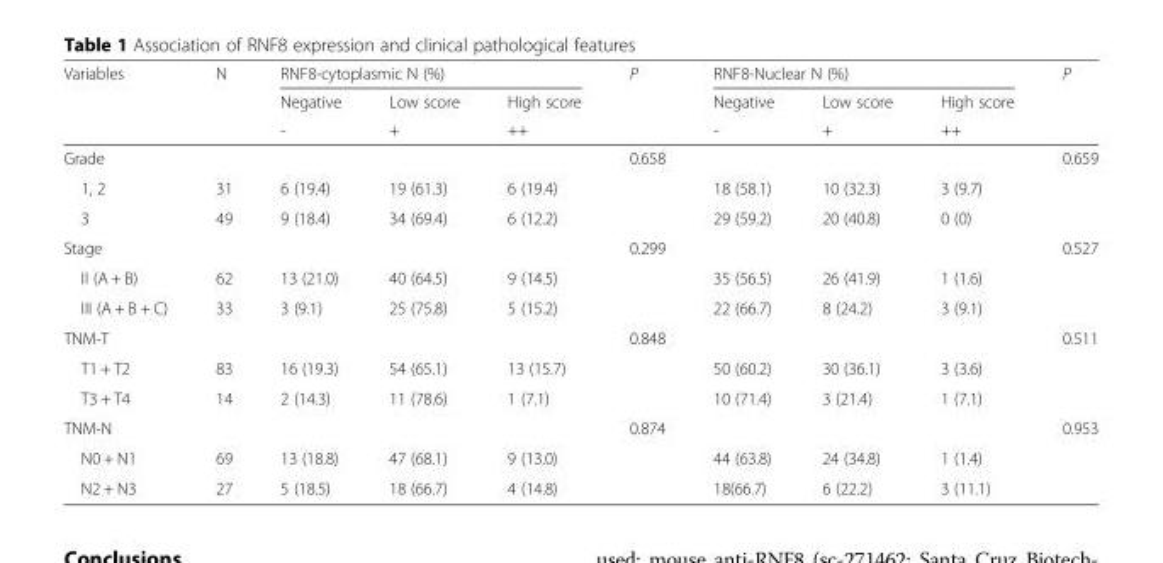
<table><thead><tr><td rowspan="3">Variables</td><td rowspan="3">N</td><td colspan="3">RNF8-cytoplasmic N (%)</td><td rowspan="3">P</td><td colspan="3">RNF8-Nuclear N (%)</td><td rowspan="3">P</td></tr><tr><td rowspan="2">Negative -</td><td rowspan="2">Low score +</td><td rowspan="2">High score ++</td><td rowspan="2">Negative -</td><td rowspan="2">Low score +</td><td rowspan="2">High score ++</td></tr><tr></tr></thead><tbody><tr><td>Grade</td><td></td><td></td><td></td><td></td><td>0.658</td><td></td><td></td><td></td><td>0.659</td></tr><tr><td>1, 2</td><td>31</td><td>6 (19.4)</td><td>19 (61.3)</td><td>6 (19.4)</td><td></td><td>18 (58.1)</td><td>10 (32.3)</td><td>3 (9.7)</td><td></td></tr><tr><td>3</td><td>49</td><td>9 (18.4)</td><td>34 (69.4)</td><td>6 (12.2)</td><td></td><td>29 (59.2)</td><td>20 (40.8)</td><td>0 (0)</td><td></td></tr><tr><td>Stage</td><td></td><td></td><td></td><td></td><td>0.299</td><td></td><td></td><td></td><td>0.527</td></tr><tr><td>II (A + B)</td><td>62</td><td>13 (21.0)</td><td>40 (64.5)</td><td>9 (14.5)</td><td></td><td>35 (56.5)</td><td>26 (41.9)</td><td>1 (1.6)</td><td></td></tr><tr><td>III (A + B + C)</td><td>33</td><td>3 (9.1)</td><td>25 (75.8)</td><td>5 (15.2)</td><td></td><td>22 (66.7)</td><td>8 (24.2)</td><td>3 (9.1)</td><td></td></tr><tr><td>TNM-T</td><td></td><td></td><td></td><td></td><td>0.848</td><td></td><td></td><td></td><td>0.511</td></tr><tr><td>T1 + T2</td><td>83</td><td>16 (19.3)</td><td>54 (65.1)</td><td>13 (15.7)</td><td></td><td>50 (60.2)</td><td>30 (36.1)</td><td>3 (3.6)</td><td></td></tr><tr><td>T3 + T4</td><td>14</td><td>2 (14.3)</td><td>11 (78.6)</td><td>1 (7.1)</td><td></td><td>10 (71.4)</td><td>3 (21.4)</td><td>1 (7.1)</td><td></td></tr><tr><td>TNM-N</td><td></td><td></td><td></td><td></td><td>0.874</td><td></td><td></td><td></td><td>0.953</td></tr><tr><td>N0 + N1</td><td>69</td><td>13 (18.8)</td><td>47 (68.1)</td><td>9 (13.0)</td><td></td><td>44 (63.8)</td><td>24 (34.8)</td><td>1 (1.4)</td><td></td></tr><tr><td>N2 + N3</td><td>27</td><td>5 (18.5)</td><td>18 (66.7)</td><td>4 (14.8)</td><td></td><td>18(66.7)</td><td>6 (22.2)</td><td>3 (11.1)</td><td></td></tr></tbody></table>